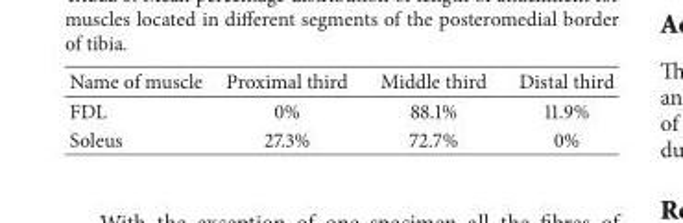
<table><thead><tr><td>Name of muscle</td><td>Proximal third</td><td>Middle third</td><td>Distal third</td></tr></thead><tbody><tr><td>FDL</td><td>0%</td><td>88.1%</td><td>11.9%</td></tr><tr><td>Soleus</td><td>27.3%</td><td>72.7%</td><td>0%</td></tr></tbody></table>